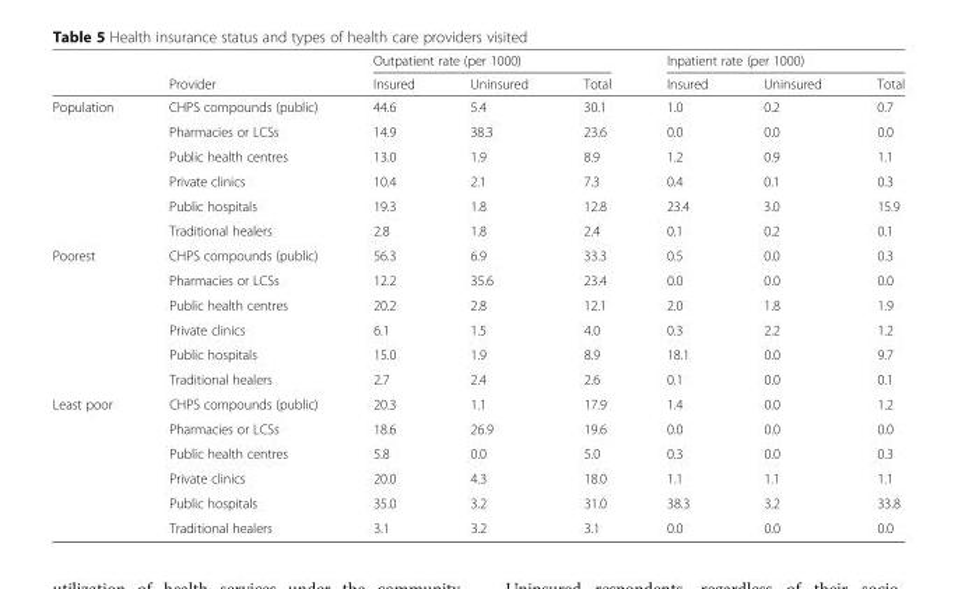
<table><thead><tr><td rowspan="2"></td><td rowspan="2">Provider</td><td colspan="3">Outpatient rate (per 1000)</td><td colspan="3">Inpatient rate (per 1000)</td></tr><tr><td>Insured</td><td>Uninsured</td><td>Total</td><td>Insured</td><td>Uninsured</td><td>Total</td></tr></thead><tbody><tr><td rowspan="6">Population</td><td>CHPS compounds (public)</td><td>44.6</td><td>5.4</td><td>30.1</td><td>1.0</td><td>0.2</td><td>0.7</td></tr><tr><td>Pharmacies or LCSs</td><td>14.9</td><td>38.3</td><td>23.6</td><td>0.0</td><td>0.0</td><td>0.0</td></tr><tr><td>Public health centres</td><td>13.0</td><td>1.9</td><td>8.9</td><td>1.2</td><td>0.9</td><td>1.1</td></tr><tr><td>Private clinics</td><td>10.4</td><td>2.1</td><td>7.3</td><td>0.4</td><td>0.1</td><td>0.3</td></tr><tr><td>Public hospitals</td><td>19.3</td><td>1.8</td><td>12.8</td><td>23.4</td><td>3.0</td><td>15.9</td></tr><tr><td>Traditional healers</td><td>2.8</td><td>1.8</td><td>2.4</td><td>0.1</td><td>0.2</td><td>0.1</td></tr><tr><td rowspan="6">Poorest</td><td>CHPS compounds (public)</td><td>56.3</td><td>6.9</td><td>33.3</td><td>0.5</td><td>0.0</td><td>0.3</td></tr><tr><td>Pharmacies or LCSs</td><td>12.2</td><td>35.6</td><td>23.4</td><td>0.0</td><td>0.0</td><td>0.0</td></tr><tr><td>Public health centres</td><td>20.2</td><td>2.8</td><td>12.1</td><td>2.0</td><td>1.8</td><td>1.9</td></tr><tr><td>Private clinics</td><td>6.1</td><td>1.5</td><td>4.0</td><td>0.3</td><td>2.2</td><td>1.2</td></tr><tr><td>Public hospitals</td><td>15.0</td><td>1.9</td><td>8.9</td><td>18.1</td><td>0.0</td><td>9.7</td></tr><tr><td>Traditional healers</td><td>2.7</td><td>2.4</td><td>2.6</td><td>0.1</td><td>0.0</td><td>0.1</td></tr><tr><td rowspan="6">Least poor</td><td>CHPS compounds (public)</td><td>20.3</td><td>1.1</td><td>17.9</td><td>1.4</td><td>0.0</td><td>1.2</td></tr><tr><td>Pharmacies or LCSs</td><td>18.6</td><td>26.9</td><td>19.6</td><td>0.0</td><td>0.0</td><td>0.0</td></tr><tr><td>Public health centres</td><td>5.8</td><td>0.0</td><td>5.0</td><td>0.3</td><td>0.0</td><td>0.3</td></tr><tr><td>Private clinics</td><td>20.0</td><td>4.3</td><td>18.0</td><td>1.1</td><td>1.1</td><td>1.1</td></tr><tr><td>Public hospitals</td><td>35.0</td><td>3.2</td><td>31.0</td><td>38.3</td><td>3.2</td><td>33.8</td></tr><tr><td>Traditional healers</td><td>3.1</td><td>3.2</td><td>3.1</td><td>0.0</td><td>0.0</td><td>0.0</td></tr></tbody></table>